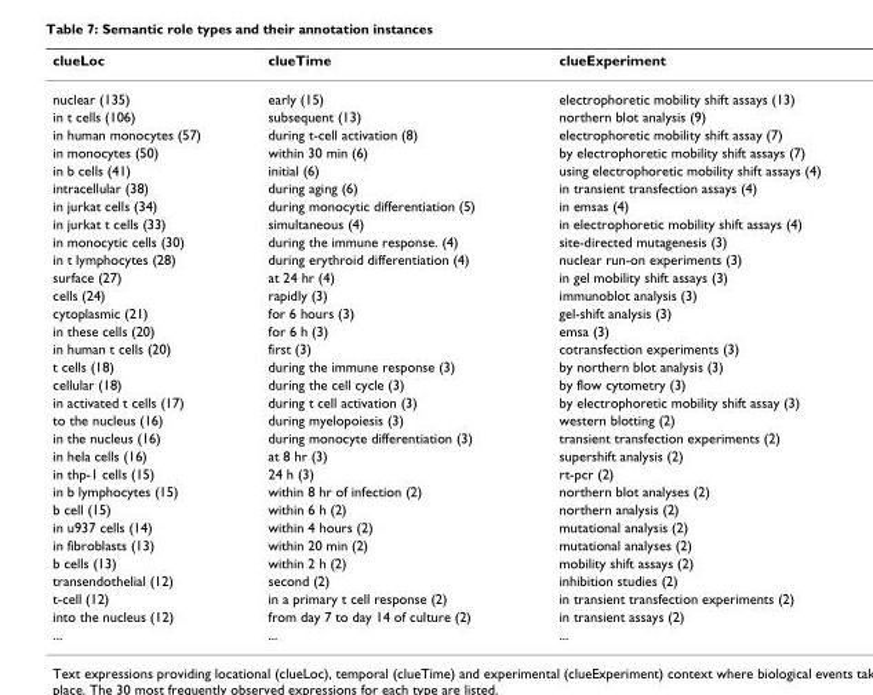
<table><thead><tr><td>clueLoc</td><td>clueTime</td><td>clueExperiment</td></tr></thead><tbody><tr><td>nuclear (135)</td><td>early (15)</td><td>electrophoretic mobility shift assays (13)</td></tr><tr><td>in t cells (106)</td><td>subsequent (13)</td><td>northern blot analysis (9)</td></tr><tr><td>in human monocytes (57)</td><td>during t-cell activation (8)</td><td>electrophoretic mobility shift assay (7)</td></tr><tr><td>in monocytes (50)</td><td>within 30 min (6)</td><td>by electrophoretic mobility shift assays (7)</td></tr><tr><td>in b cells (41)</td><td>initial (6)</td><td>using electrophoretic mobility shift assays (4)</td></tr><tr><td>intracellular (38)</td><td>during aging (6)</td><td>in transient transfection assays (4)</td></tr><tr><td>in jurkat cells (34)</td><td>during monocytic differentiation (5)</td><td>in emsas (4)</td></tr><tr><td>in jurkat t cells (33)</td><td>simultaneous (4)</td><td>in electrophoretic mobility shift assays (4)</td></tr><tr><td>in monocytic cells (30)</td><td>during the immune response. (4)</td><td>site-directed mutagenesis (3)</td></tr><tr><td>in t lymphocytes (28)</td><td>during erythroid differentiation (4)</td><td>nuclear run-on experiments (3)</td></tr><tr><td>surface (27)</td><td>at 24 hr (4)</td><td>in gel mobility shift assays (3)</td></tr><tr><td>cells (24)</td><td>rapidly (3)</td><td>immunoblot analysis (3)</td></tr><tr><td>cytoplasmic (21)</td><td>for 6 hours (3)</td><td>gel-shift analysis (3)</td></tr><tr><td>in these cells (20)</td><td>for 6 h (3)</td><td>emsa (3)</td></tr><tr><td>in human t cells (20)</td><td>first (3)</td><td>cotransfection experiments (3)</td></tr><tr><td>t cells (18)</td><td>during the immune response (3)</td><td>by northern blot analysis (3)</td></tr><tr><td>cellular (18)</td><td>during the cell cycle (3)</td><td>by flow cytometry (3)</td></tr><tr><td>in activated t cells (17)</td><td>during t cell activation (3)</td><td>by electrophoretic mobility shift assay (3)</td></tr><tr><td>to the nucleus (16)</td><td>during myelopoiesis (3)</td><td>western blotting (2)</td></tr><tr><td>in the nucleus (16)</td><td>during monocyte differentiation (3)</td><td>transient transfection experiments (2)</td></tr><tr><td>in hela cells (16)</td><td>at 8 hr (3)</td><td>supershift analysis (2)</td></tr><tr><td>in thp-1 cells (15)</td><td>24 h (3)</td><td>rt-pcr (2)</td></tr><tr><td>in b lymphocytes (15)</td><td>within 8 hr of infection (2)</td><td>northern blot analyses (2)</td></tr><tr><td>b cell (15)</td><td>within 6 h (2)</td><td>northern analysis (2)</td></tr><tr><td>in u937 cells (14)</td><td>within 4 hours (2)</td><td>mutational analysis (2)</td></tr><tr><td>in fibroblasts (13)</td><td>within 20 min (2)</td><td>mutational analyses (2)</td></tr><tr><td>b cells (13)</td><td>within 2 h (2)</td><td>mobility shift assays (2)</td></tr><tr><td>transendothelial (12)</td><td>second (2)</td><td>inhibition studies (2)</td></tr><tr><td>t-cell (12)</td><td>in a primary t cell response (2)</td><td>in transient transfection experiments (2)</td></tr><tr><td>into the nucleus (12)</td><td>from day 7 to day 14 of culture (2)</td><td>in transient assays (2)</td></tr><tr><td>...</td><td>...</td><td>...</td></tr></tbody></table>